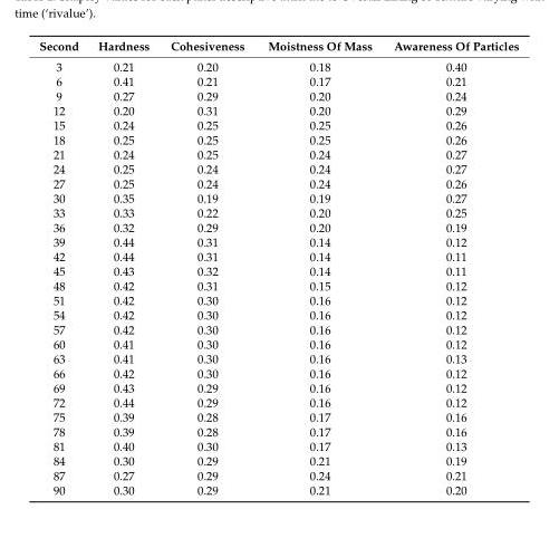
<table><thead><tr><td>Second</td><td>Hardness</td><td>Cohesiveness</td><td>Moistness Of Mass</td><td>Awareness Of Particles</td></tr></thead><tbody><tr><td>3</td><td>0.21</td><td>0.20</td><td>0.18</td><td>0.40</td></tr><tr><td>6</td><td>0.41</td><td>0.21</td><td>0.17</td><td>0.21</td></tr><tr><td>9</td><td>0.27</td><td>0.29</td><td>0.20</td><td>0.24</td></tr><tr><td>12</td><td>0.20</td><td>0.31</td><td>0.20</td><td>0.29</td></tr><tr><td>15</td><td>0.24</td><td>0.25</td><td>0.25</td><td>0.26</td></tr><tr><td>18</td><td>0.25</td><td>0.25</td><td>0.25</td><td>0.26</td></tr><tr><td>21</td><td>0.24</td><td>0.25</td><td>0.24</td><td>0.27</td></tr><tr><td>24</td><td>0.25</td><td>0.24</td><td>0.24</td><td>0.27</td></tr><tr><td>27</td><td>0.25</td><td>0.24</td><td>0.24</td><td>0.26</td></tr><tr><td>30</td><td>0.35</td><td>0.19</td><td>0.19</td><td>0.27</td></tr><tr><td>33</td><td>0.33</td><td>0.22</td><td>0.20</td><td>0.25</td></tr><tr><td>36</td><td>0.32</td><td>0.29</td><td>0.20</td><td>0.19</td></tr><tr><td>39</td><td>0.44</td><td>0.31</td><td>0.14</td><td>0.12</td></tr><tr><td>42</td><td>0.44</td><td>0.31</td><td>0.14</td><td>0.11</td></tr><tr><td>45</td><td>0.43</td><td>0.32</td><td>0.14</td><td>0.11</td></tr><tr><td>48</td><td>0.42</td><td>0.31</td><td>0.15</td><td>0.12</td></tr><tr><td>51</td><td>0.42</td><td>0.30</td><td>0.16</td><td>0.12</td></tr><tr><td>54</td><td>0.42</td><td>0.30</td><td>0.16</td><td>0.12</td></tr><tr><td>57</td><td>0.42</td><td>0.30</td><td>0.16</td><td>0.12</td></tr><tr><td>60</td><td>0.41</td><td>0.30</td><td>0.16</td><td>0.12</td></tr><tr><td>63</td><td>0.41</td><td>0.30</td><td>0.16</td><td>0.13</td></tr><tr><td>66</td><td>0.42</td><td>0.30</td><td>0.16</td><td>0.12</td></tr><tr><td>69</td><td>0.43</td><td>0.29</td><td>0.16</td><td>0.12</td></tr><tr><td>72</td><td>0.44</td><td>0.29</td><td>0.16</td><td>0.12</td></tr><tr><td>75</td><td>0.39</td><td>0.28</td><td>0.17</td><td>0.16</td></tr><tr><td>78</td><td>0.39</td><td>0.28</td><td>0.17</td><td>0.16</td></tr><tr><td>81</td><td>0.40</td><td>0.30</td><td>0.17</td><td>0.13</td></tr><tr><td>84</td><td>0.30</td><td>0.29</td><td>0.21</td><td>0.19</td></tr><tr><td>87</td><td>0.27</td><td>0.29</td><td>0.24</td><td>0.21</td></tr><tr><td>90</td><td>0.30</td><td>0.29</td><td>0.21</td><td>0.20</td></tr></tbody></table>